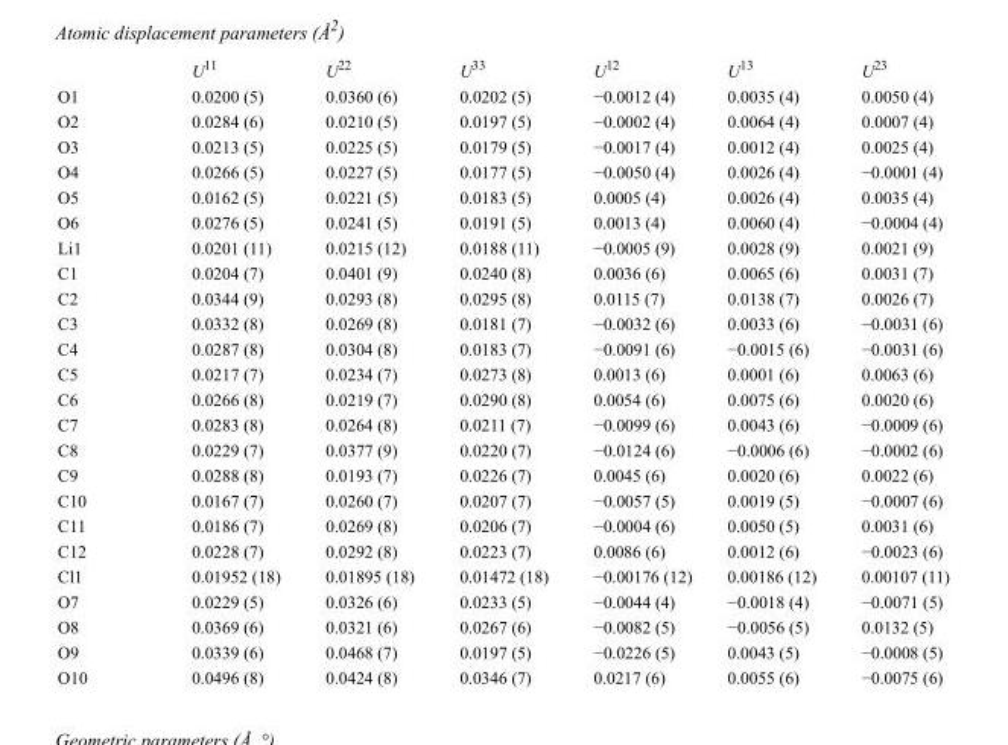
<table><thead><tr><td></td><td>U<sup>11</sup></td><td>U<sup>22</sup></td><td>U<sup>33</sup></td><td>U<sup>12</sup></td><td>U<sup>13</sup></td><td>U<sup>23</sup></td></tr></thead><tbody><tr><td>O1</td><td>0.0200 (5)</td><td>0.0360 (6)</td><td>0.0202 (5)</td><td>−0.0012 (4)</td><td>0.0035 (4)</td><td>0.0050 (4)</td></tr><tr><td>O2</td><td>0.0284 (6)</td><td>0.0210 (5)</td><td>0.0197 (5)</td><td>−0.0002 (4)</td><td>0.0064 (4)</td><td>0.0007 (4)</td></tr><tr><td>O3</td><td>0.0213 (5)</td><td>0.0225 (5)</td><td>0.0179 (5)</td><td>−0.0017 (4)</td><td>0.0012 (4)</td><td>0.0025 (4)</td></tr><tr><td>O4</td><td>0.0266 (5)</td><td>0.0227 (5)</td><td>0.0177 (5)</td><td>−0.0050 (4)</td><td>0.0026 (4)</td><td>−0.0001 (4)</td></tr><tr><td>O5</td><td>0.0162 (5)</td><td>0.0221 (5)</td><td>0.0183 (5)</td><td>0.0005 (4)</td><td>0.0026 (4)</td><td>0.0035 (4)</td></tr><tr><td>O6</td><td>0.0276 (5)</td><td>0.0241 (5)</td><td>0.0191 (5)</td><td>0.0013 (4)</td><td>0.0060 (4)</td><td>−0.0004 (4)</td></tr><tr><td>Li1</td><td>0.0201 (11)</td><td>0.0215 (12)</td><td>0.0188 (11)</td><td>−0.0005 (9)</td><td>0.0028 (9)</td><td>0.0021 (9)</td></tr><tr><td>C1</td><td>0.0204 (7)</td><td>0.0401 (9)</td><td>0.0240 (8)</td><td>0.0036 (6)</td><td>0.0065 (6)</td><td>0.0031 (7)</td></tr><tr><td>C2</td><td>0.0344 (9)</td><td>0.0293 (8)</td><td>0.0295 (8)</td><td>0.0115 (7)</td><td>0.0138 (7)</td><td>0.0026 (7)</td></tr><tr><td>C3</td><td>0.0332 (8)</td><td>0.0269 (8)</td><td>0.0181 (7)</td><td>−0.0032 (6)</td><td>0.0033 (6)</td><td>−0.0031 (6)</td></tr><tr><td>C4</td><td>0.0287 (8)</td><td>0.0304 (8)</td><td>0.0183 (7)</td><td>−0.0091 (6)</td><td>−0.0015 (6)</td><td>−0.0031 (6)</td></tr><tr><td>C5</td><td>0.0217 (7)</td><td>0.0234 (7)</td><td>0.0273 (8)</td><td>0.0013 (6)</td><td>0.0001 (6)</td><td>0.0063 (6)</td></tr><tr><td>C6</td><td>0.0266 (8)</td><td>0.0219 (7)</td><td>0.0290 (8)</td><td>0.0054 (6)</td><td>0.0075 (6)</td><td>0.0020 (6)</td></tr><tr><td>C7</td><td>0.0283 (8)</td><td>0.0264 (8)</td><td>0.0211 (7)</td><td>−0.0099 (6)</td><td>0.0043 (6)</td><td>−0.0009 (6)</td></tr><tr><td>C8</td><td>0.0229 (7)</td><td>0.0377 (9)</td><td>0.0220 (7)</td><td>−0.0124 (6)</td><td>−0.0006 (6)</td><td>−0.0002 (6)</td></tr><tr><td>C9</td><td>0.0288 (8)</td><td>0.0193 (7)</td><td>0.0226 (7)</td><td>0.0045 (6)</td><td>0.0020 (6)</td><td>0.0022 (6)</td></tr><tr><td>C10</td><td>0.0167 (7)</td><td>0.0260 (7)</td><td>0.0207 (7)</td><td>−0.0057 (5)</td><td>0.0019 (5)</td><td>−0.0007 (6)</td></tr><tr><td>C11</td><td>0.0186 (7)</td><td>0.0269 (8)</td><td>0.0206 (7)</td><td>−0.0004 (6)</td><td>0.0050 (5)</td><td>0.0031 (6)</td></tr><tr><td>C12</td><td>0.0228 (7)</td><td>0.0292 (8)</td><td>0.0223 (7)</td><td>0.0086 (6)</td><td>0.0012 (6)</td><td>−0.0023 (6)</td></tr><tr><td>Cl1</td><td>0.01952 (18)</td><td>0.01895 (18)</td><td>0.01472 (18)</td><td>−0.00176 (12)</td><td>0.00186 (12)</td><td>0.00107 (11)</td></tr><tr><td>O7</td><td>0.0229 (5)</td><td>0.0326 (6)</td><td>0.0233 (5)</td><td>−0.0044 (4)</td><td>−0.0018 (4)</td><td>−0.0071 (5)</td></tr><tr><td>O8</td><td>0.0369 (6)</td><td>0.0321 (6)</td><td>0.0267 (6)</td><td>−0.0082 (5)</td><td>−0.0056 (5)</td><td>0.0132 (5)</td></tr><tr><td>O9</td><td>0.0339 (6)</td><td>0.0468 (7)</td><td>0.0197 (5)</td><td>−0.0226 (5)</td><td>0.0043 (5)</td><td>−0.0008 (5)</td></tr><tr><td>O10</td><td>0.0496 (8)</td><td>0.0424 (8)</td><td>0.0346 (7)</td><td>0.0217 (6)</td><td>0.0055 (6)</td><td>−0.0075 (6)</td></tr></tbody></table>